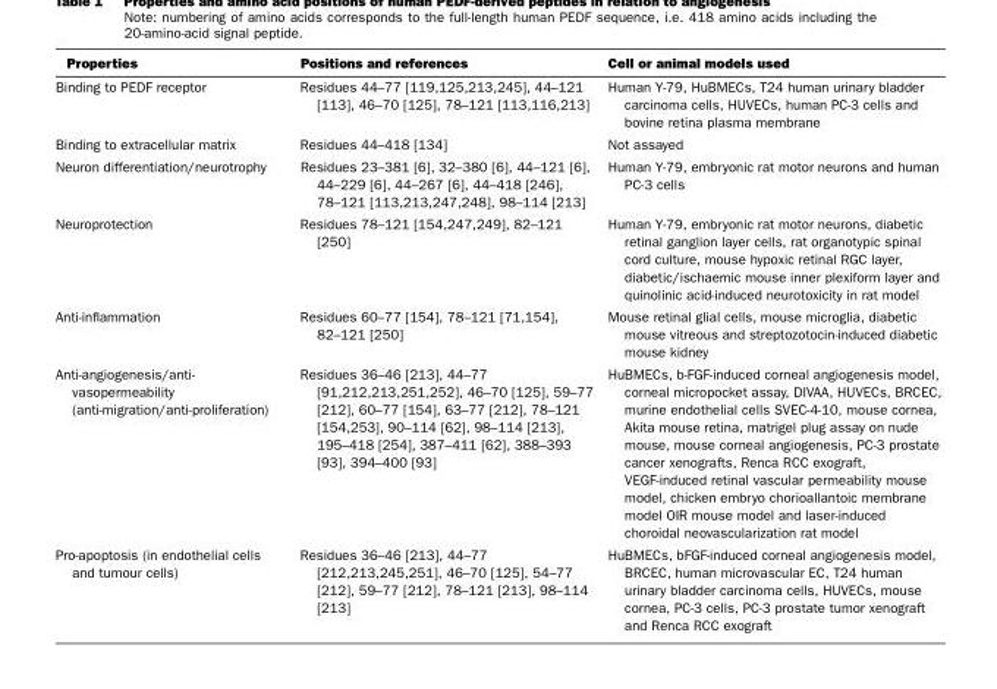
<table><thead><tr><td>Properties</td><td>Positions and references</td><td>Cell or animal models used</td></tr></thead><tbody><tr><td>Binding to PEDF receptor</td><td>Residues 44–77 [119,125,213,245], 44–121 [113], 46–70 [125], 78–121 [113,116,213]</td><td>Human Y-79, HuBMECs, T24 human urinary bladder carcinoma cells, HUVECs, human PC-3 cells and bovine retina plasma membrane</td></tr><tr><td>Binding to extracellular matrix</td><td>Residues 44–418 [134]</td><td>Not assayed</td></tr><tr><td>Neuron differentiation/neurotrophy</td><td>Residues 23–381 [6], 32–380 [6], 44–121 [6], 44–229 [6], 44–267 [6], 44–418 [246], 78–121 [113,213,247,248], 98–114 [213]</td><td>Human Y-79, embryonic rat motor neurons and human PC-3 cells</td></tr><tr><td>Neuroprotection</td><td>Residues 78–121 [154,247,249], 82–121 [250]</td><td>Human Y-79, embryonic rat motor neurons, diabetic retinal ganglion layer cells, rat organotypic spinal cord culture, mouse hypoxic retinal RGC layer, diabetic/ischaemic mouse inner plexiform layer and quinolinic acid-induced neurotoxicity in rat model</td></tr><tr><td>Anti-inflammation</td><td>Residues 60–77 [154], 78–121 [71,154], 82–121 [250]</td><td>Mouse retinal glial cells, mouse microglia, diabetic mouse vitreous and streptozotocin-induced diabetic mouse kidney</td></tr><tr><td>Anti-angiogenesis/anti- vasopermeability (anti-migration/anti-proliferation)</td><td>Residues 36–46 [213], 44–77 [91,212,213,251,252], 46–70 [125], 59–77 [212], 60–77 [154], 63–77 [212], 78–121 [154,253], 90–114 [62], 98–114 [213], 195–418 [254], 387–411 [62], 388–393 [93], 394–400 [93]</td><td>HuBMECs, b-FGF-induced corneal angiogenesis model, corneal micropocket assay, DIVAA, HUVECs, BRCEC, murine endothelial cells SVEC-4-10, mouse cornea, Akita mouse retina, matrigel plug assay on nude mouse, mouse corneal angiogenesis, PC-3 prostate cancer xenografts, Renca RCC exograft, VEGF-induced retinal vascular permeability mouse model, chicken embryo chorioallantoic membrane model OIR mouse model and laser-induced choroidal neovascularization rat model</td></tr><tr><td>Pro-apoptosis (in endothelial cells and tumour cells)</td><td>Residues 36–46 [213], 44–77 [212,213,245,251], 46–70 [125], 54–77 [212], 59–77 [212], 78–121 [213], 98–114 [213]</td><td>HuBMECs, bFGF-induced corneal angiogenesis model, BRCEC, human microvascular EC, T24 human urinary bladder carcinoma cells, HUVECs, mouse cornea, PC-3 cells, PC-3 prostate tumor xenograft and Renca RCC exograft</td></tr></tbody></table>